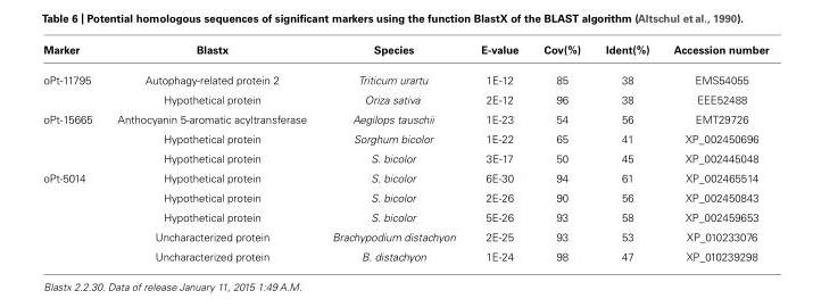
<table><thead><tr><td>Marker</td><td>Blastx</td><td>Species</td><td>E-value</td><td>Cov(%)</td><td>Ident(%)</td><td>Accession number</td></tr></thead><tbody><tr><td rowspan="2">oPt-11795</td><td>Autophagy-related protein 2</td><td>Triticum urartu</td><td>1E-12</td><td>85</td><td>38</td><td>EMS54055</td></tr><tr><td>Hypothetical protein</td><td>Oriza sativa</td><td>2E-12</td><td>96</td><td>38</td><td>EEE52488</td></tr><tr><td rowspan="3">oPt-15665</td><td>Anthocyanin 5-aromatic acyltransferase</td><td>Aegilops tauschii</td><td>1E-23</td><td>54</td><td>56</td><td>EMT29726</td></tr><tr><td>Hypothetical protein</td><td>Sorghum bicolor</td><td>1E-22</td><td>65</td><td>41</td><td>XP_002450696</td></tr><tr><td>Hypothetical protein</td><td>S. bicolor</td><td>3E-17</td><td>50</td><td>45</td><td>XP_002445048</td></tr><tr><td rowspan="5">oPt-5014</td><td>Hypothetical protein</td><td>S. bicolor</td><td>6E-30</td><td>94</td><td>61</td><td>XP_002465514</td></tr><tr><td>Hypothetical protein</td><td>S. bicolor</td><td>2E-26</td><td>90</td><td>56</td><td>XP_002450843</td></tr><tr><td>Hypothetical protein</td><td>S. bicolor</td><td>5E-26</td><td>93</td><td>58</td><td>XP_002459653</td></tr><tr><td>Uncharacterized protein</td><td>Brachypodium distachyon</td><td>2E-25</td><td>93</td><td>53</td><td>XP_010233076</td></tr><tr><td>Uncharacterized protein</td><td>B. distachyon</td><td>1E-24</td><td>98</td><td>47</td><td>XP_010239298</td></tr></tbody></table>